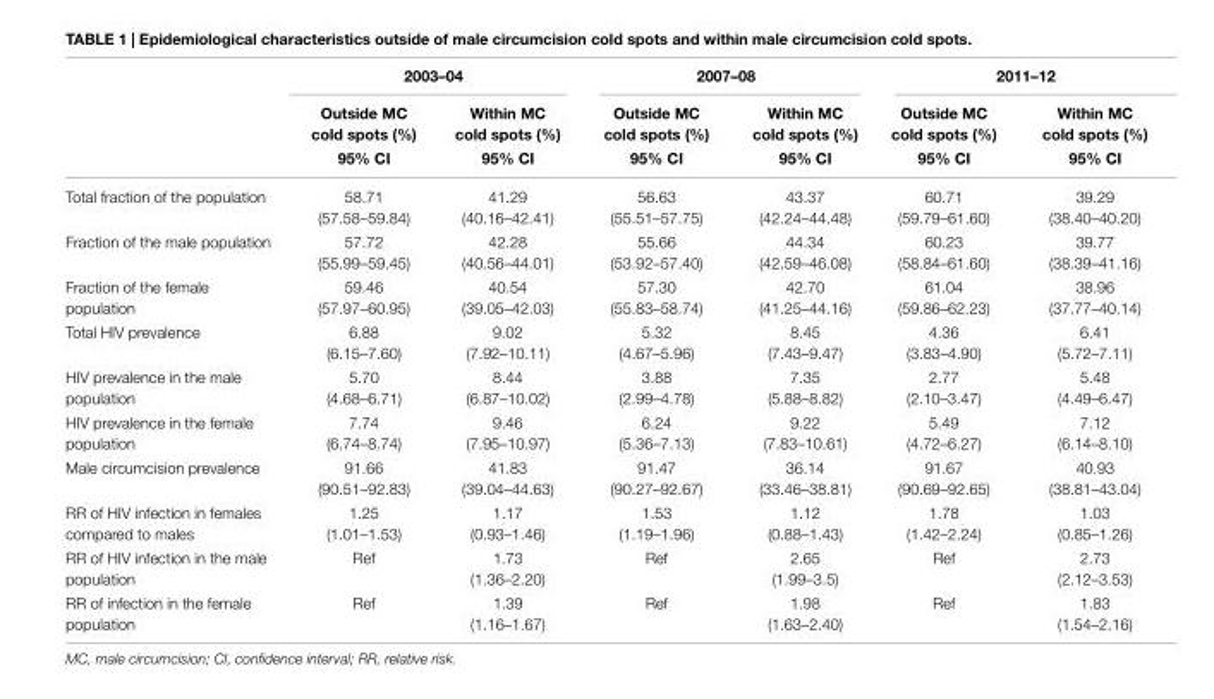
<table><thead><tr><td rowspan="3"></td><td colspan="2">2003–04</td><td colspan="2">2007–08</td><td colspan="2">2011–12</td></tr><tr><td rowspan="2">Outside Mc cold spots (%) 95% ci</td><td rowspan="2">Within Mc cold spots (%) 95% ci</td><td rowspan="2">Outside Mc cold spots (%) 95% ci</td><td rowspan="2">Within Mc cold spots (%) 95% ci</td><td rowspan="2">Outside Mc cold spots (%) 95% ci</td><td rowspan="2">Within Mc cold spots (%) 95% ci</td></tr><tr></tr></thead><tbody><tr><td>Total fraction of the population</td><td>58.71 (57.58–59.84)</td><td>41.29 (40.16–42.41)</td><td>56.63 (55.51–57.75)</td><td>43.37 (42.24–44.48)</td><td>60.71 (59.79–61.60)</td><td>39.29 (38.40–40.20)</td></tr><tr><td>Fraction of the male population</td><td>57.72 (55.99–59.45)</td><td>42.28 (40.56–44.01)</td><td>55.66 (53.92–57.40)</td><td>44.34 (42.59–46.08)</td><td>60.23 (58.84–61.60)</td><td>39.77 (38.39–41.16)</td></tr><tr><td>Fraction of the female population</td><td>59.46 (57.97–60.95)</td><td>40.54 (39.05–42.03)</td><td>57.30 (55.83–58.74)</td><td>42.70 (41.25–44.16)</td><td>61.04 (59.86–62.23)</td><td>38.96 (37.77–40.14)</td></tr><tr><td>Total HIV prevalence</td><td>6.88 (6.15–7.60)</td><td>9.02 (7.92–10.11)</td><td>5.32 (4.67–5.96)</td><td>8.45 (7.43–9.47)</td><td>4.36 (3.83–4.90)</td><td>6.41 (5.72–7.11)</td></tr><tr><td>HIV prevalence in the male population</td><td>5.70 (4.68–6.71)</td><td>8.44 (6.87–10.02)</td><td>3.88 (2.99–4.78)</td><td>7.35 (5.88–8.82)</td><td>2.77 (2.10–3.47)</td><td>5.48 (4.49–6.47)</td></tr><tr><td>HIV prevalence in the female population</td><td>7.74 (6.74–8.74)</td><td>9.46 (7.95–10.97)</td><td>6.24 (5.36–7.13)</td><td>9.22 (7.83–10.61)</td><td>5.49 (4.72–6.27)</td><td>7.12 (6.14–8.10)</td></tr><tr><td>Male circumcision prevalence</td><td>91.66 (90.51–92.83)</td><td>41.83 (39.04–44.63)</td><td>91.47 (90.27–92.67)</td><td>36.14 (33.46–38.81)</td><td>91.67 (90.69–92.65)</td><td>40.93 (38.81–43.04)</td></tr><tr><td>RR of HIV infection in females compared to males</td><td>1.25 (1.01–1.53)</td><td>1.17 (0.93–1.46)</td><td>1.53 (1.19–1.96)</td><td>1.12 (0.88–1.43)</td><td>1.78 (1.42–2.24)</td><td>1.03 (0.85–1.26)</td></tr><tr><td>RR of HIV infection in the male population</td><td>Ref</td><td>1.73 (1.36–2.20)</td><td>Ref</td><td>2.65 (1.99–3.5)</td><td>Ref</td><td>2.73 (2.12–3.53)</td></tr><tr><td>RR of infection in the female population</td><td>Ref</td><td>1.39 (1.16–1.67)</td><td>Ref</td><td>1.98 (1.63–2.40)</td><td>Ref</td><td>1.83 (1.54–2.16)</td></tr></tbody></table>